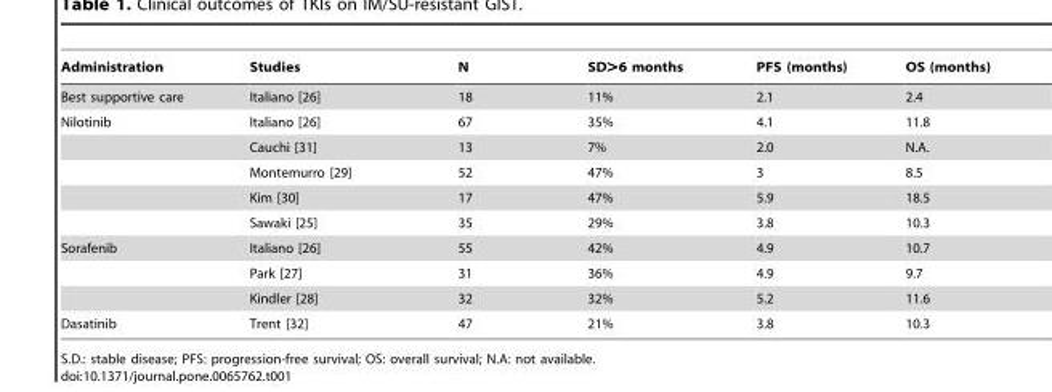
<table><thead><tr><td>Administration</td><td>Studies</td><td>N</td><td>SD&gt;6 months</td><td>PFS (months)</td><td>OS (months)</td></tr></thead><tbody><tr><td>Best supportive care</td><td>Italiano [26]</td><td>18</td><td>11%</td><td>2.1</td><td>2.4</td></tr><tr><td rowspan="5">Nilotinib</td><td>Italiano [26]</td><td>67</td><td>35%</td><td>4.1</td><td>11.8</td></tr><tr><td>Cauchi [31]</td><td>13</td><td>7%</td><td>2.0</td><td>N.A.</td></tr><tr><td>Montemurro [29]</td><td>52</td><td>47%</td><td>3</td><td>8.5</td></tr><tr><td>Kim [30]</td><td>17</td><td>47%</td><td>5.9</td><td>18.5</td></tr><tr><td>Sawaki [25]</td><td>35</td><td>29%</td><td>3.8</td><td>10.3</td></tr><tr><td rowspan="3">Sorafenib</td><td>Italiano [26]</td><td>55</td><td>42%</td><td>4.9</td><td>10.7</td></tr><tr><td>Park [27]</td><td>31</td><td>36%</td><td>4.9</td><td>9.7</td></tr><tr><td>Kindler [28]</td><td>32</td><td>32%</td><td>5.2</td><td>11.6</td></tr><tr><td>Dasatinib</td><td>Trent [32]</td><td>47</td><td>21%</td><td>3.8</td><td>10.3</td></tr></tbody></table>